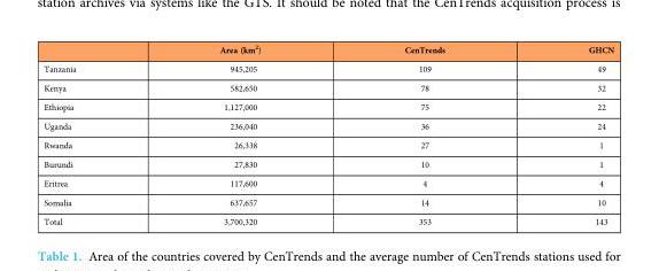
<table><thead><tr><td></td><td>Area (km<sup>2</sup>)</td><td>CenTrends</td><td>GHCN</td></tr></thead><tbody><tr><td>Tanzania</td><td>945,205</td><td>109</td><td>49</td></tr><tr><td>Kenya</td><td>582,650</td><td>78</td><td>32</td></tr><tr><td>Ethiopia</td><td>1,127,000</td><td>75</td><td>22</td></tr><tr><td>Uganda</td><td>236,040</td><td>36</td><td>24</td></tr><tr><td>Rwanda</td><td>26,338</td><td>27</td><td>1</td></tr><tr><td>Burundi</td><td>27,830</td><td>10</td><td>1</td></tr><tr><td>Eritrea</td><td>117,600</td><td>4</td><td>4</td></tr><tr><td>Somalia</td><td>637,657</td><td>14</td><td>10</td></tr><tr><td>Total</td><td>3,700,320</td><td>353</td><td>143</td></tr></tbody></table>